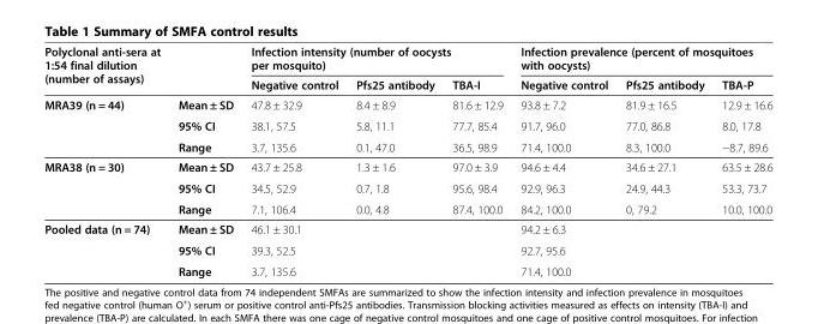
<table><thead><tr><td rowspan="2">Polyclonal anti-sera at 1:54 final dilution (number of assays)</td><td rowspan="2"></td><td colspan="3">Infection intensity (number of oocysts per mosquito)</td><td colspan="3">Infection prevalence (percent of mosquitoes with oocysts)</td></tr><tr><td>Negative control</td><td>Pfs25 antibody</td><td>TBA-I</td><td>Negative control</td><td>Pfs25 antibody</td><td>TBA-P</td></tr></thead><tbody><tr><td rowspan="3">MRA39 (n = 44)</td><td>Mean ± SD</td><td>47.8 ± 32.9</td><td>8.4 ± 8.9</td><td>81.6 ± 12.9</td><td>93.8 ± 7.2</td><td>81.9 ± 16.5</td><td>12.9 ± 16.6</td></tr><tr><td>95% CI</td><td>38.1, 57.5</td><td>5.8, 11.1</td><td>77.7, 85.4</td><td>91.7, 96.0</td><td>77.0, 86.8</td><td>8.0, 17.8</td></tr><tr><td>Range</td><td>3.7, 135.6</td><td>0.1, 47.0</td><td>36.5, 98.9</td><td>71.4, 100.0</td><td>8.3, 100.0</td><td>−8.7, 89.6</td></tr><tr><td rowspan="3">MRA38 (n = 30)</td><td>Mean ± SD</td><td>43.7 ± 25.8</td><td>1.3 ± 1.6</td><td>97.0 ± 3.9</td><td>94.6 ± 4.4</td><td>34.6 ± 27.1</td><td>63.5 ± 28.6</td></tr><tr><td>95% CI</td><td>34.5, 52.9</td><td>0.7, 1.8</td><td>95.6, 98.4</td><td>92.9, 96.3</td><td>24.9, 44.3</td><td>53.3, 73.7</td></tr><tr><td>Range</td><td>7.1, 106.4</td><td>0.0, 4.8</td><td>87.4, 100.0</td><td>84.2, 100.0</td><td>0, 79.2</td><td>10.0, 100.0</td></tr><tr><td rowspan="3">Pooled data (n = 74)</td><td>Mean ± SD</td><td>46.1 ± 30.1</td><td></td><td></td><td>94.2 ± 6.3</td><td></td><td></td></tr><tr><td>95% CI</td><td>39.3, 52.5</td><td></td><td></td><td>92.7, 95.6</td><td></td><td></td></tr><tr><td>Range</td><td>3.7, 135.6</td><td></td><td></td><td>71.4, 100.0</td><td></td><td></td></tr></tbody></table>